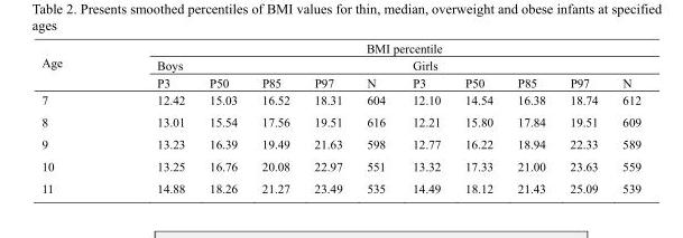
<table><thead><tr><td rowspan="3">Age</td><td colspan="10">BMI percentile</td></tr><tr><td colspan="5">Boys</td><td colspan="5">Girls</td></tr><tr><td>P3</td><td>P50</td><td>P85</td><td>P97</td><td>N</td><td>P3</td><td>P50</td><td>P85</td><td>P97</td><td>N</td></tr></thead><tbody><tr><td>7</td><td>12.42</td><td>15.03</td><td>16.52</td><td>18.31</td><td>604</td><td>12.10</td><td>14.54</td><td>16.38</td><td>18.74</td><td>612</td></tr><tr><td>8</td><td>13.01</td><td>15.54</td><td>17.56</td><td>19.51</td><td>616</td><td>12.21</td><td>15.80</td><td>17.84</td><td>19.51</td><td>609</td></tr><tr><td>9</td><td>13.23</td><td>16.39</td><td>19.49</td><td>21.63</td><td>598</td><td>12.77</td><td>16.22</td><td>18.94</td><td>22.33</td><td>589</td></tr><tr><td>10</td><td>13.25</td><td>16.76</td><td>20.08</td><td>22.97</td><td>551</td><td>13.32</td><td>17.33</td><td>21.00</td><td>23.63</td><td>559</td></tr><tr><td>11</td><td>14.88</td><td>18.26</td><td>21.27</td><td>23.49</td><td>535</td><td>14.49</td><td>18.12</td><td>21.43</td><td>25.09</td><td>539</td></tr></tbody></table>